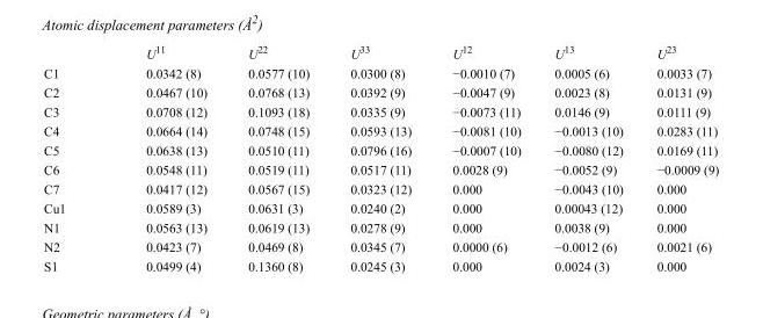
<table><thead><tr><td></td><td>U<sup>11</sup></td><td>U<sup>22</sup></td><td>U<sup>33</sup></td><td>U<sup>12</sup></td><td>U<sup>13</sup></td><td>U<sup>23</sup></td></tr></thead><tbody><tr><td>C1</td><td>0.0342 (8)</td><td>0.0577 (10)</td><td>0.0300 (8)</td><td>−0.0010 (7)</td><td>0.0005 (6)</td><td>0.0033 (7)</td></tr><tr><td>C2</td><td>0.0467 (10)</td><td>0.0768 (13)</td><td>0.0392 (9)</td><td>−0.0047 (9)</td><td>0.0023 (8)</td><td>0.0131 (9)</td></tr><tr><td>C3</td><td>0.0708 (12)</td><td>0.1093 (18)</td><td>0.0335 (9)</td><td>−0.0073 (11)</td><td>0.0146 (9)</td><td>0.0111 (9)</td></tr><tr><td>C4</td><td>0.0664 (14)</td><td>0.0748 (15)</td><td>0.0593 (13)</td><td>−0.0081 (10)</td><td>−0.0013 (10)</td><td>0.0283 (11)</td></tr><tr><td>C5</td><td>0.0638 (13)</td><td>0.0510 (11)</td><td>0.0796 (16)</td><td>−0.0007 (10)</td><td>−0.0080 (12)</td><td>0.0169 (11)</td></tr><tr><td>C6</td><td>0.0548 (11)</td><td>0.0519 (11)</td><td>0.0517 (11)</td><td>0.0028 (9)</td><td>−0.0052 (9)</td><td>−0.0009 (9)</td></tr><tr><td>C7</td><td>0.0417 (12)</td><td>0.0567 (15)</td><td>0.0323 (12)</td><td>0.000</td><td>−0.0043 (10)</td><td>0.000</td></tr><tr><td>Cu1</td><td>0.0589 (3)</td><td>0.0631 (3)</td><td>0.0240 (2)</td><td>0.000</td><td>0.00043 (12)</td><td>0.000</td></tr><tr><td>N1</td><td>0.0563 (13)</td><td>0.0619 (13)</td><td>0.0278 (9)</td><td>0.000</td><td>0.0038 (9)</td><td>0.000</td></tr><tr><td>N2</td><td>0.0423 (7)</td><td>0.0469 (8)</td><td>0.0345 (7)</td><td>0.0000 (6)</td><td>−0.0012 (6)</td><td>0.0021 (6)</td></tr><tr><td>S1</td><td>0.0499 (4)</td><td>0.1360 (8)</td><td>0.0245 (3)</td><td>0.000</td><td>0.0024 (3)</td><td>0.000</td></tr></tbody></table>